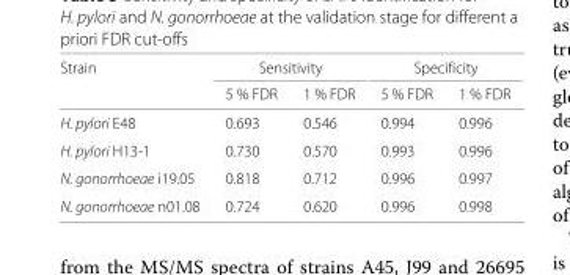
<table><thead><tr><td rowspan="2">Strain</td><td colspan="2">Sensitivity</td><td colspan="2">Specificity</td></tr><tr><td>5 % FDR</td><td>1 % FDR</td><td>5 % FDR</td><td>1 % FDR</td></tr></thead><tbody><tr><td>H. pylori E48</td><td>0.693</td><td>0.546</td><td>0.994</td><td>0.996</td></tr><tr><td>H. pylori H13-1</td><td>0.730</td><td>0.570</td><td>0.993</td><td>0.996</td></tr><tr><td>N. gonorrhoeae i19.05</td><td>0.818</td><td>0.712</td><td>0.996</td><td>0.997</td></tr><tr><td>N. gonorrhoeae n01.08</td><td>0.724</td><td>0.620</td><td>0.996</td><td>0.998</td></tr></tbody></table>